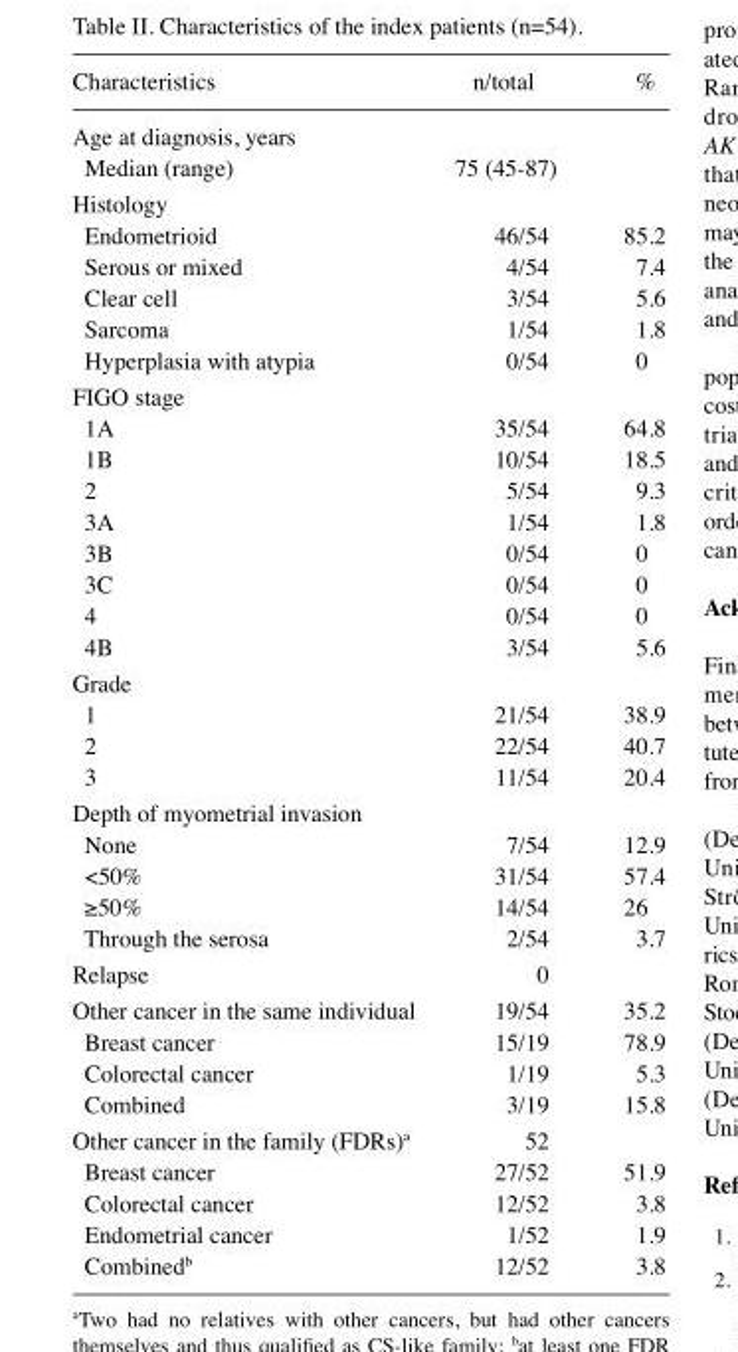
<table><thead><tr><td>Characteristics</td><td>n/total</td><td>%</td></tr></thead><tbody><tr><td colspan="3">Age at diagnosis, years</td></tr><tr><td>Median (range)</td><td>75 (45‑87)</td><td></td></tr><tr><td colspan="3">Histology</td></tr><tr><td>Endometrioid</td><td>46/54</td><td>85.2</td></tr><tr><td>Serous or mixed</td><td>4/54</td><td>7.4</td></tr><tr><td>Clear cell</td><td>3/54</td><td>5.6</td></tr><tr><td>Sarcoma</td><td>1/54</td><td>1.8</td></tr><tr><td>Hyperplasia with atypia</td><td>0/54</td><td>0</td></tr><tr><td colspan="3">FIGO stage</td></tr><tr><td>1A</td><td>35/54</td><td>64.8</td></tr><tr><td>1B</td><td>10/54</td><td>18.5</td></tr><tr><td>2</td><td>5/54</td><td>9.3</td></tr><tr><td>3A</td><td>1/54</td><td>1.8</td></tr><tr><td>3B</td><td>0/54</td><td>0</td></tr><tr><td>3C</td><td>0/54</td><td>0</td></tr><tr><td>4</td><td>0/54</td><td>0</td></tr><tr><td>4B</td><td>3/54</td><td>5.6</td></tr><tr><td colspan="3">Grade</td></tr><tr><td>1</td><td>21/54</td><td>38.9</td></tr><tr><td>2</td><td>22/54</td><td>40.7</td></tr><tr><td>3</td><td>11/54</td><td>20.4</td></tr><tr><td colspan="3">Depth of myometrial invasion</td></tr><tr><td>None</td><td>7/54</td><td>12.9</td></tr><tr><td>&lt;50%</td><td>31/54</td><td>57.4</td></tr><tr><td>≥50%</td><td>14/54</td><td>26</td></tr><tr><td>Through the serosa</td><td>2/54</td><td>3.7</td></tr><tr><td>Relapse</td><td>0</td><td></td></tr><tr><td>Other cancer in the same individual</td><td>19/54</td><td>35.2</td></tr><tr><td>Breast cancer</td><td>15/19</td><td>78.9</td></tr><tr><td>Colorectal cancer</td><td>1/19</td><td>5.3</td></tr><tr><td>Combined</td><td>3/19</td><td>15.8</td></tr><tr><td>Other cancer in the family (FDRs)<sup>a</sup></td><td>52</td><td></td></tr><tr><td>Breast cancer</td><td>27/52</td><td>51.9</td></tr><tr><td>Colorectal cancer</td><td>12/52</td><td>3.8</td></tr><tr><td>Endometrial cancer</td><td>1/52</td><td>1.9</td></tr><tr><td>Combined<sup>b</sup></td><td>12/52</td><td>3.8</td></tr></tbody></table>